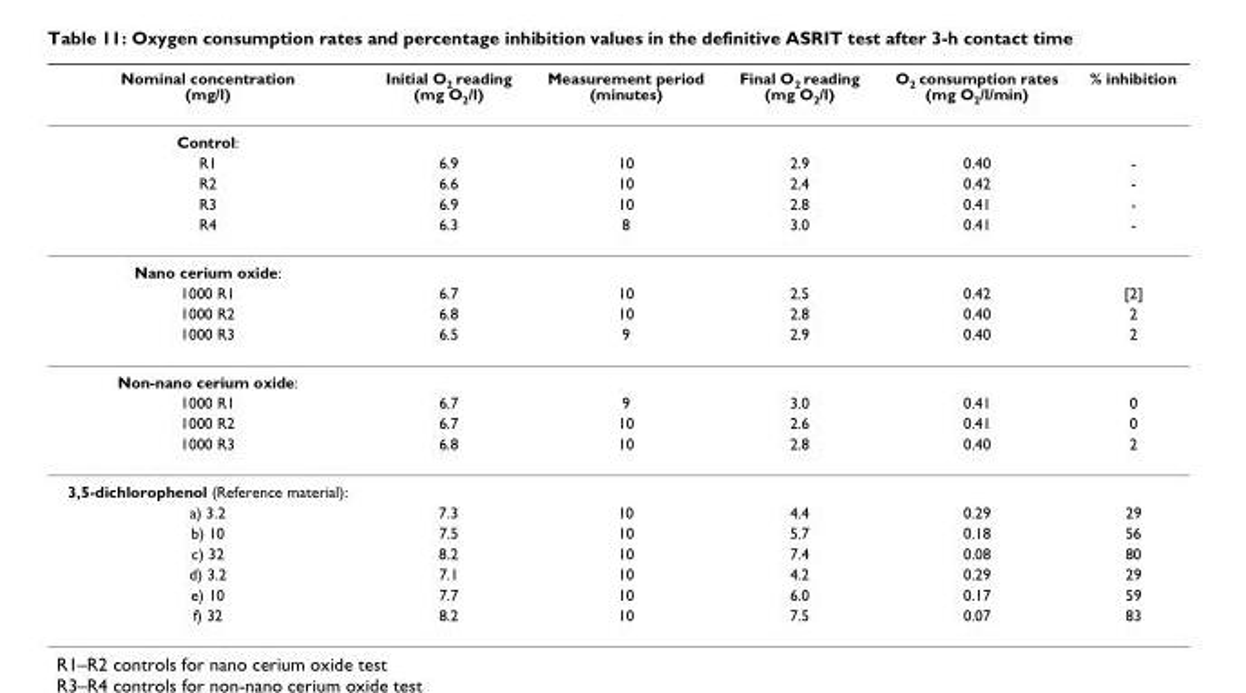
<table><thead><tr><td>Nominal concentration (mg/l)</td><td>Initial O<sub>2</sub> reading (mg O<sub>2</sub>/l)</td><td>Measurement period (minutes)</td><td>Final O<sub>2</sub> reading (mg O<sub>2</sub>/l)</td><td>O<sub>2</sub> consumption rates (mg O<sub>2</sub>/l/min)</td><td>% inhibition</td></tr></thead><tbody><tr><td colspan="6">Control:</td></tr><tr><td>R1</td><td>6.9</td><td>10</td><td>2.9</td><td>0.40</td><td>-</td></tr><tr><td>R2</td><td>6.6</td><td>10</td><td>2.4</td><td>0.42</td><td>-</td></tr><tr><td>R3</td><td>6.9</td><td>10</td><td>2.8</td><td>0.41</td><td>-</td></tr><tr><td>R4</td><td>6.3</td><td>8</td><td>3.0</td><td>0.41</td><td>-</td></tr><tr><td colspan="6">Nano cerium oxide:</td></tr><tr><td>1000 R1</td><td>6.7</td><td>10</td><td>2.5</td><td>0.42</td><td>[2]</td></tr><tr><td>1000 R2</td><td>6.8</td><td>10</td><td>2.8</td><td>0.40</td><td>2</td></tr><tr><td>1000 R3</td><td>6.5</td><td>9</td><td>2.9</td><td>0.40</td><td>2</td></tr><tr><td colspan="6">Non-nano cerium oxide:</td></tr><tr><td>1000 R1</td><td>6.7</td><td>9</td><td>3.0</td><td>0.41</td><td>0</td></tr><tr><td>1000 R2</td><td>6.7</td><td>10</td><td>2.6</td><td>0.41</td><td>0</td></tr><tr><td>1000 R3</td><td>6.8</td><td>10</td><td>2.8</td><td>0.40</td><td>2</td></tr><tr><td colspan="6">3,5-dichlorophenol (Reference material):</td></tr><tr><td>a) 3.2</td><td>7.3</td><td>10</td><td>4.4</td><td>0.29</td><td>29</td></tr><tr><td>b) 10</td><td>7.5</td><td>10</td><td>5.7</td><td>0.18</td><td>56</td></tr><tr><td>c) 32</td><td>8.2</td><td>10</td><td>7.4</td><td>0.08</td><td>80</td></tr><tr><td>d) 3.2</td><td>7.1</td><td>10</td><td>4.2</td><td>0.29</td><td>29</td></tr><tr><td>e) 10</td><td>7.7</td><td>10</td><td>6.0</td><td>0.17</td><td>59</td></tr><tr><td>f) 32</td><td>8.2</td><td>10</td><td>7.5</td><td>0.07</td><td>83</td></tr></tbody></table>